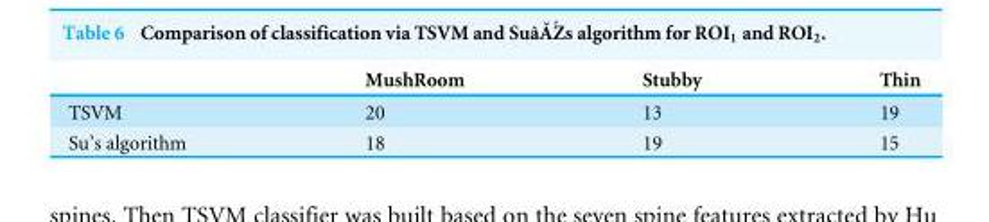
<table><thead><tr><td></td><td>MushRoom</td><td>Stubby</td><td>Thin</td></tr></thead><tbody><tr><td>TSVM</td><td>20</td><td>13</td><td>19</td></tr><tr><td>Su’s algorithm</td><td>18</td><td>19</td><td>15</td></tr></tbody></table>